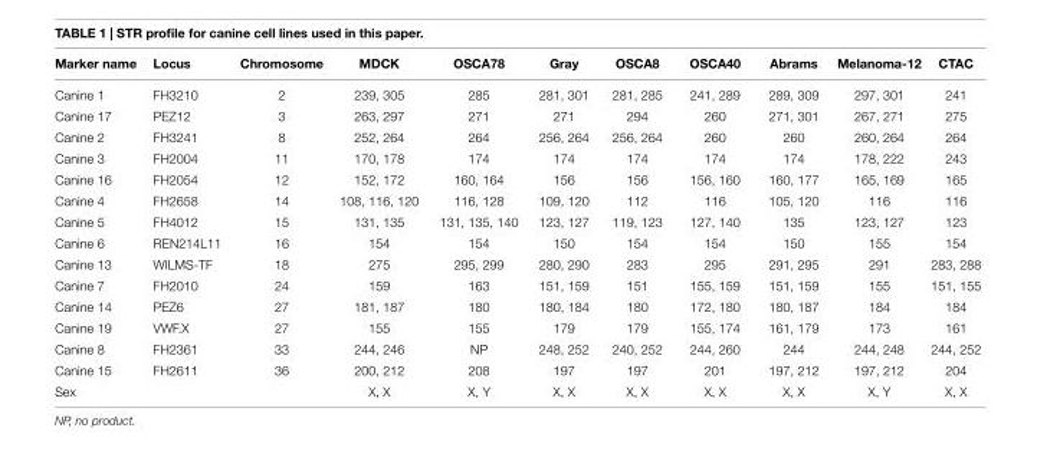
<table><thead><tr><td>Marker name</td><td>locus</td><td>chromosome</td><td>MDcK</td><td>Osca78</td><td>gray</td><td>Osca8</td><td>Osca40</td><td>abrams</td><td>Melanoma-12</td><td>cTac</td></tr></thead><tbody><tr><td>Canine 1</td><td>FH3210</td><td>2</td><td>239, 305</td><td>285</td><td>281, 301</td><td>281, 285</td><td>241, 289</td><td>289, 309</td><td>297, 301</td><td>241</td></tr><tr><td>Canine 17</td><td>PEZ12</td><td>3</td><td>263, 297</td><td>271</td><td>271</td><td>294</td><td>260</td><td>271, 301</td><td>267, 271</td><td>275</td></tr><tr><td>Canine 2</td><td>FH3241</td><td>8</td><td>252, 264</td><td>264</td><td>256, 264</td><td>256, 264</td><td>260</td><td>260</td><td>260, 264</td><td>264</td></tr><tr><td>Canine 3</td><td>FH2004</td><td>11</td><td>170, 178</td><td>174</td><td>174</td><td>174</td><td>174</td><td>174</td><td>178, 222</td><td>243</td></tr><tr><td>Canine 16</td><td>FH2054</td><td>12</td><td>152, 172</td><td>160, 164</td><td>156</td><td>156</td><td>156, 160</td><td>160, 177</td><td>165, 169</td><td>165</td></tr><tr><td>Canine 4</td><td>FH2658</td><td>14</td><td>108, 116, 120</td><td>116, 128</td><td>109, 120</td><td>112</td><td>116</td><td>105, 120</td><td>116</td><td>116</td></tr><tr><td>Canine 5</td><td>FH4012</td><td>15</td><td>131, 135</td><td>131, 135, 140</td><td>123, 127</td><td>119, 123</td><td>127, 140</td><td>135</td><td>123, 127</td><td>123</td></tr><tr><td>Canine 6</td><td>REN214L11</td><td>16</td><td>154</td><td>154</td><td>150</td><td>154</td><td>154</td><td>150</td><td>155</td><td>154</td></tr><tr><td>Canine 13</td><td>WILMS-TF</td><td>18</td><td>275</td><td>295, 299</td><td>280, 290</td><td>283</td><td>295</td><td>291, 295</td><td>291</td><td>283, 288</td></tr><tr><td>Canine 7</td><td>FH2010</td><td>24</td><td>159</td><td>163</td><td>151, 159</td><td>151</td><td>155, 159</td><td>151, 159</td><td>155</td><td>151, 155</td></tr><tr><td>Canine 14</td><td>PEZ6</td><td>27</td><td>181, 187</td><td>180</td><td>180, 184</td><td>180</td><td>172, 180</td><td>180, 187</td><td>184</td><td>184</td></tr><tr><td>Canine 19</td><td>VWF.X</td><td>27</td><td>155</td><td>155</td><td>179</td><td>179</td><td>155, 174</td><td>161, 179</td><td>173</td><td>161</td></tr><tr><td>Canine 8</td><td>FH2361</td><td>33</td><td>244, 246</td><td>NP</td><td>248, 252</td><td>240, 252</td><td>244, 260</td><td>244</td><td>244, 248</td><td>244, 252</td></tr><tr><td>Canine 15</td><td>FH2611</td><td>36</td><td>200, 212</td><td>208</td><td>197</td><td>197</td><td>201</td><td>197, 212</td><td>197, 212</td><td>204</td></tr><tr><td>Sex</td><td></td><td></td><td>X, X</td><td>X, Y</td><td>X, X</td><td>X, X</td><td>X, X</td><td>X, X</td><td>X, Y</td><td>X, X</td></tr></tbody></table>